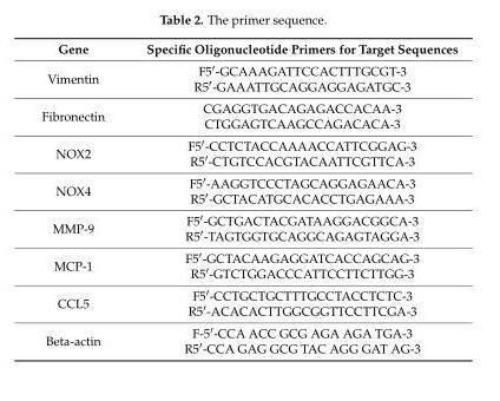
<table><thead><tr><td>Gene</td><td>Specific Oligonucleotide Primers for Target Sequences</td></tr></thead><tbody><tr><td>Vimentin</td><td>F5′-GCAAAGATTCCACTTTGCGT-3 R5′-GAAATTGCAGGAGGAGATGC-3</td></tr><tr><td>Fibronectin</td><td>CGAGGTGACAGAGACCACAA-3 CTGGAGTCAAGCCAGACACA-3</td></tr><tr><td>NOX2</td><td>F5′-CCTCTACCAAAACCATTCGGAG-3 R5′-CTGTCCACGTACAATTCGTTCA-3</td></tr><tr><td>NOX4</td><td>F5′-AAGGTCCCTAGCAGGAGAACA-3 R5′-GCTACATGCACACCTGAGAAA-3</td></tr><tr><td>MMP-9</td><td>F5′-GCTGACTACGATAAGGACGGCA-3 R5′-TAGTGGTGCAGGCAGAGTAGGA-3</td></tr><tr><td>MCP-1</td><td>F5′-GCTACAAGAGGATCACCAGCAG-3 R5′-GTCTGGACCCATTCCTTCTTGG-3</td></tr><tr><td>CCL5</td><td>F5′-CCTGCTGCTTTGCCTACCTCTC-3 R5′-ACACACTTGGCGGTTCCTTCGA-3</td></tr><tr><td>Beta-actin</td><td>F-5′-CCA ACC GCG AGA AGA TGA-3 R5′-CCA GAG GCG TAC AGG GAT AG-3</td></tr></tbody></table>